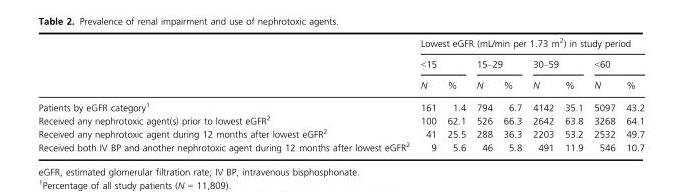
<table><thead><tr><td rowspan="3"></td><td colspan="8">Lowest eGFR (mL/min per 1.73 m<sup>2</sup>) in study period</td></tr><tr><td colspan="2">&lt;15</td><td colspan="2">15–29</td><td colspan="2">30–59</td><td colspan="2">&lt;60</td></tr><tr><td>N</td><td>%</td><td>N</td><td>%</td><td>N</td><td>%</td><td>N</td><td>%</td></tr></thead><tbody><tr><td>Patients by eGFR category<sup>1</sup></td><td>161</td><td>1.4</td><td>794</td><td>6.7</td><td>4142</td><td>35.1</td><td>5097</td><td>43.2</td></tr><tr><td>Received any nephrotoxic agent(s) prior to lowest eGFR<sup>2</sup></td><td>100</td><td>62.1</td><td>526</td><td>66.3</td><td>2642</td><td>63.8</td><td>3268</td><td>64.1</td></tr><tr><td>Received any nephrotoxic agent during 12 months after lowest eGFR<sup>2</sup></td><td>41</td><td>25.5</td><td>288</td><td>36.3</td><td>2203</td><td>53.2</td><td>2532</td><td>49.7</td></tr><tr><td>Received both IV BP and another nephrotoxic agent during 12 months after lowest eGFR<sup>2</sup></td><td>9</td><td>5.6</td><td>46</td><td>5.8</td><td>491</td><td>11.9</td><td>546</td><td>10.7</td></tr></tbody></table>